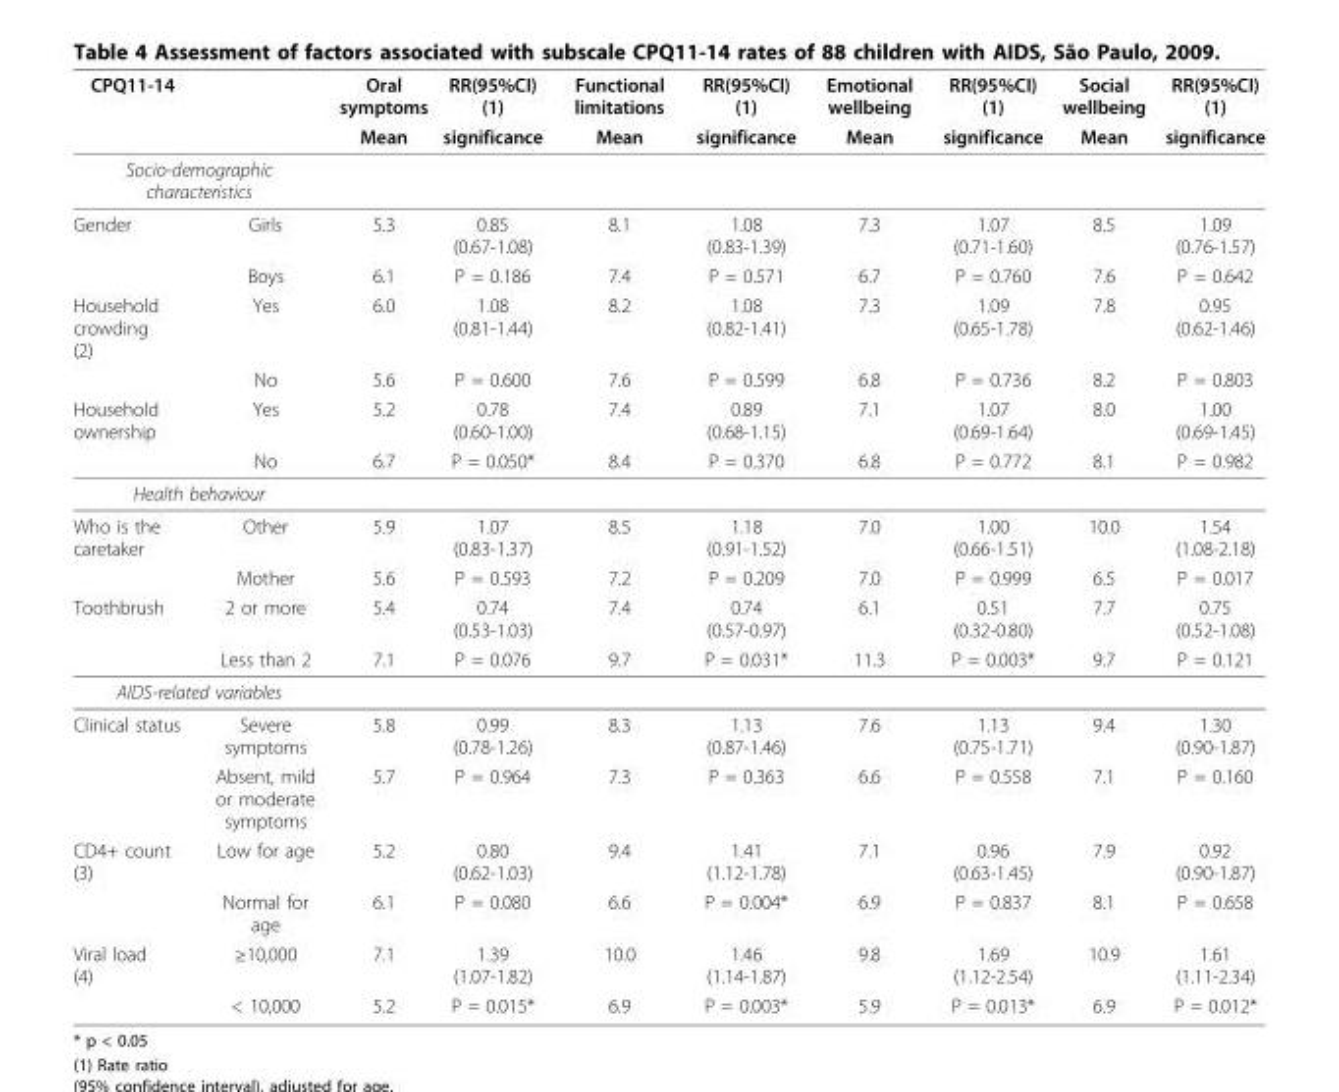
<table><thead><tr><td rowspan="2">CPQ11-14</td><td rowspan="2"></td><td rowspan="2">Oral symptoms Mean</td><td rowspan="2">RR(95%CI) (1) significance</td><td rowspan="2">Functional limitations Mean</td><td rowspan="2">RR(95%CI) (1) significance</td><td rowspan="2">Emotional wellbeing Mean</td><td rowspan="2">RR(95%CI) (1) significance</td><td rowspan="2">Social wellbeing Mean</td><td rowspan="2">RR(95%CI) (1) significance</td></tr><tr></tr></thead><tbody><tr><td colspan="10">Socio-demographic characteristics</td></tr><tr><td rowspan="2">Gender</td><td>Girls</td><td>5.3</td><td>0.85 (0.67-1.08)</td><td>8.1</td><td>1.08 (0.83-1.39)</td><td>7.3</td><td>1.07 (0.71-1.60)</td><td>8.5</td><td>1.09 (0.76-1.57)</td></tr><tr><td>Boys</td><td>6.1</td><td>P = 0.186</td><td>7.4</td><td>P = 0.571</td><td>6.7</td><td>P = 0.760</td><td>7.6</td><td>P = 0.642</td></tr><tr><td rowspan="2">Household crowding (2)</td><td>Yes</td><td>6.0</td><td>1.08 (0.81-1.44)</td><td>8.2</td><td>1.08 (0.82-1.41)</td><td>7.3</td><td>1.09 (0.65-1.78)</td><td>7.8</td><td>0.95 (0.62-1.46)</td></tr><tr><td>No</td><td>5.6</td><td>P = 0.600</td><td>7.6</td><td>P = 0.599</td><td>6.8</td><td>P = 0.736</td><td>8.2</td><td>P = 0.803</td></tr><tr><td rowspan="2">Household ownership</td><td>Yes</td><td>5.2</td><td>0.78 (0.60-1.00)</td><td>7.4</td><td>0.89 (0.68-1.15)</td><td>7.1</td><td>1.07 (0.69-1.64)</td><td>8.0</td><td>1.00 (0.69-1.45)</td></tr><tr><td>No</td><td>6.7</td><td>P = 0.050*</td><td>8.4</td><td>P = 0.370</td><td>6.8</td><td>P = 0.772</td><td>8.1</td><td>P = 0.982</td></tr><tr><td colspan="10">Health behaviour</td></tr><tr><td rowspan="2">Who is the caretaker</td><td>Other</td><td>5.9</td><td>1.07 (0.83-1.37)</td><td>8.5</td><td>1.18 (0.91-1.52)</td><td>7.0</td><td>1.00 (0.66-1.51)</td><td>10.0</td><td>1.54 (1.08-2.18)</td></tr><tr><td>Mother</td><td>5.6</td><td>P = 0.593</td><td>7.2</td><td>P = 0.209</td><td>7.0</td><td>P = 0.999</td><td>6.5</td><td>P = 0.017</td></tr><tr><td rowspan="2">Toothbrush</td><td>2 or more</td><td>5.4</td><td>0.74 (0.53-1.03)</td><td>7.4</td><td>0.74 (0.57-0.97)</td><td>6.1</td><td>0.51 (0.32-0.80)</td><td>7.7</td><td>0.75 (0.52-1.08)</td></tr><tr><td>Less than 2</td><td>7.1</td><td>P = 0.076</td><td>9.7</td><td>P = 0.031*</td><td>11.3</td><td>P = 0.003*</td><td>9.7</td><td>P = 0.121</td></tr><tr><td colspan="10">AIDS-related variables</td></tr><tr><td rowspan="2">Clinical status</td><td>Severe symptoms</td><td>5.8</td><td>0.99 (0.78-1.26)</td><td>8.3</td><td>1.13 (0.87-1.46)</td><td>7.6</td><td>1.13 (0.75-1.71)</td><td>9.4</td><td>1.30 (0.90-1.87)</td></tr><tr><td>Absent, mild or moderate symptoms</td><td>5.7</td><td>P = 0.964</td><td>7.3</td><td>P = 0.363</td><td>6.6</td><td>P = 0.558</td><td>7.1</td><td>P = 0.160</td></tr><tr><td rowspan="2">CD4+ count (3)</td><td>Low for age</td><td>5.2</td><td>0.80 (0.62-1.03)</td><td>9.4</td><td>1.41 (1.12-1.78)</td><td>7.1</td><td>0.96 (0.63-1.45)</td><td>7.9</td><td>0.92 (0.90-1.87)</td></tr><tr><td>Normal for age</td><td>6.1</td><td>P = 0.080</td><td>6.6</td><td>P = 0.004*</td><td>6.9</td><td>P = 0.837</td><td>8.1</td><td>P = 0.658</td></tr><tr><td rowspan="2">Viral load (4)</td><td>≥10,000</td><td>7.1</td><td>1.39 (1.07-1.82)</td><td>10.0</td><td>1.46 (1.14-1.87)</td><td>9.8</td><td>1.69 (1.12-2.54)</td><td>10.9</td><td>1.61 (1.11-2.34)</td></tr><tr><td>&lt; 10,000</td><td>5.2</td><td>P = 0.015*</td><td>6.9</td><td>P = 0.003*</td><td>5.9</td><td>P = 0.013*</td><td>6.9</td><td>P = 0.012*</td></tr></tbody></table>